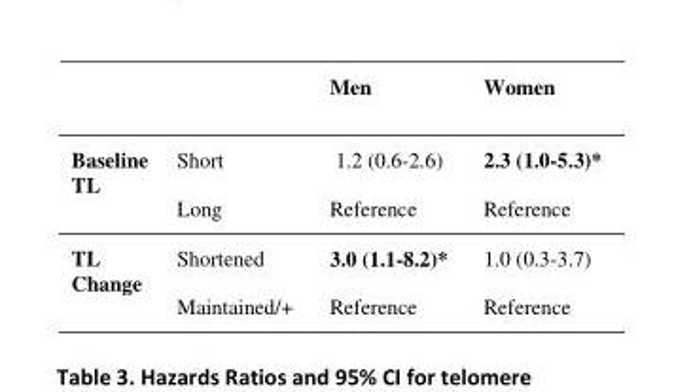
<table><thead><tr><td></td><td></td><td>Men</td><td>Women</td></tr></thead><tbody><tr><td rowspan="2">Baseline TL</td><td>Short</td><td>1.2 (0.6-2.6)</td><td>2.3 (1.0-5.3)*</td></tr><tr><td>Long</td><td>Reference</td><td>Reference</td></tr><tr><td rowspan="2">TL Change</td><td>Shortened</td><td>3.0 (1.1-8.2)*</td><td>1.0 (0.3-3.7)</td></tr><tr><td>Maintained/+</td><td>Reference</td><td>Reference</td></tr></tbody></table>